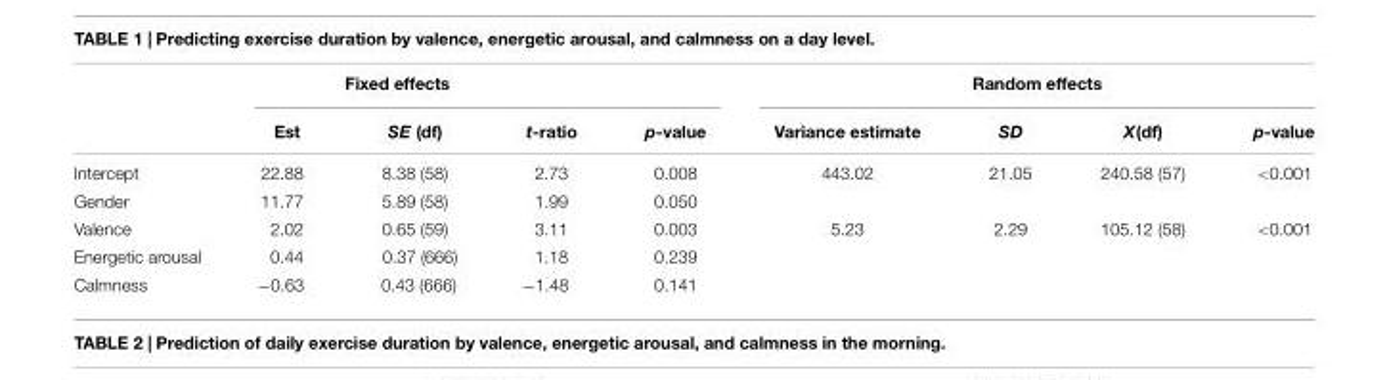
<table><thead><tr><td colspan="5">Fixed effects</td><td colspan="4">Random effects</td></tr><tr><td></td><td>Est</td><td>SE (df)</td><td>t-ratio</td><td>p-value</td><td>Variance estimate</td><td>SD</td><td>X(df)</td><td>p-value</td></tr></thead><tbody><tr><td>Intercept</td><td>22.88</td><td>8.38 (58)</td><td>2.73</td><td>0.008</td><td>443.02</td><td>21.05</td><td>240.58 (57)</td><td>&lt;0.001</td></tr><tr><td>Gender</td><td>11.77</td><td>5.89 (58)</td><td>1.99</td><td>0.050</td><td></td><td></td><td></td><td></td></tr><tr><td>Valence</td><td>2.02</td><td>0.65 (59)</td><td>3.11</td><td>0.003</td><td>5.23</td><td>2.29</td><td>105.12 (58)</td><td>&lt;0.001</td></tr><tr><td>Energetic arousal</td><td>0.44</td><td>0.37 (666)</td><td>1.18</td><td>0.239</td><td></td><td></td><td></td><td></td></tr><tr><td>Calmness</td><td>−0.63</td><td>0.43 (666)</td><td>−1.48</td><td>0.141</td><td></td><td></td><td></td><td></td></tr></tbody></table>